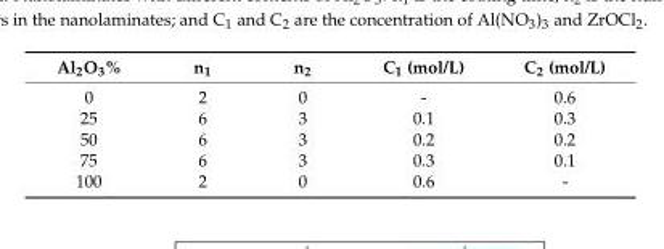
<table><thead><tr><td>Al<sub>2</sub>O<sub>3</sub>%</td><td>n<sub>1</sub></td><td>n<sub>2</sub></td><td>C<sub>1</sub> (mol/L)</td><td>C<sub>2</sub> (mol/L)</td></tr></thead><tbody><tr><td>0</td><td>2</td><td>0</td><td>-</td><td>0.6</td></tr><tr><td>25</td><td>6</td><td>3</td><td>0.1</td><td>0.3</td></tr><tr><td>50</td><td>6</td><td>3</td><td>0.2</td><td>0.2</td></tr><tr><td>75</td><td>6</td><td>3</td><td>0.3</td><td>0.1</td></tr><tr><td>100</td><td>2</td><td>0</td><td>0.6</td><td>-</td></tr></tbody></table>